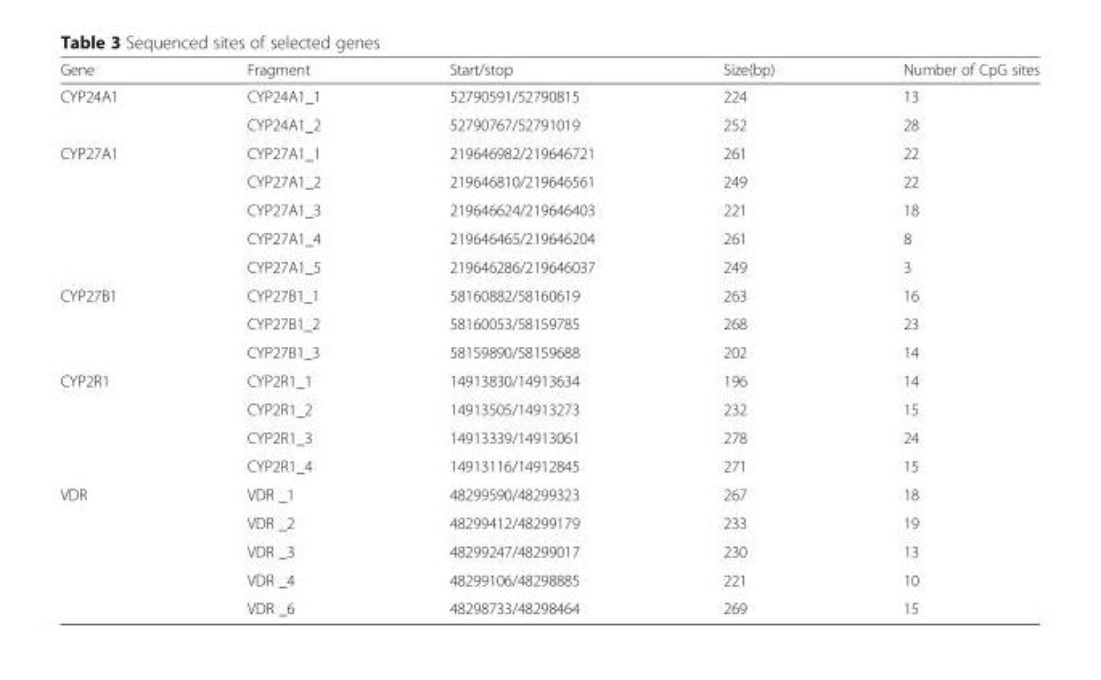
<table><thead><tr><td>Gene</td><td>Fragment</td><td>Start/stop</td><td>Size(bp)</td><td>Number of CpG sites</td></tr></thead><tbody><tr><td rowspan="2">CYP24A1</td><td>CYP24A1_1</td><td>52790591/52790815</td><td>224</td><td>13</td></tr><tr><td>CYP24A1_2</td><td>52790767/52791019</td><td>252</td><td>28</td></tr><tr><td rowspan="5">CYP27A1</td><td>CYP27A1_1</td><td>219646982/219646721</td><td>261</td><td>22</td></tr><tr><td>CYP27A1_2</td><td>219646810/219646561</td><td>249</td><td>22</td></tr><tr><td>CYP27A1_3</td><td>219646624/219646403</td><td>221</td><td>18</td></tr><tr><td>CYP27A1_4</td><td>219646465/219646204</td><td>261</td><td>8</td></tr><tr><td>CYP27A1_5</td><td>219646286/219646037</td><td>249</td><td>3</td></tr><tr><td rowspan="3">CYP27B1</td><td>CYP27B1_1</td><td>58160882/58160619</td><td>263</td><td>16</td></tr><tr><td>CYP27B1_2</td><td>58160053/58159785</td><td>268</td><td>23</td></tr><tr><td>CYP27B1_3</td><td>58159890/58159688</td><td>202</td><td>14</td></tr><tr><td rowspan="4">CYP2R1</td><td>CYP2R1_1</td><td>14913830/14913634</td><td>196</td><td>14</td></tr><tr><td>CYP2R1_2</td><td>14913505/14913273</td><td>232</td><td>15</td></tr><tr><td>CYP2R1_3</td><td>14913339/14913061</td><td>278</td><td>24</td></tr><tr><td>CYP2R1_4</td><td>14913116/14912845</td><td>271</td><td>15</td></tr><tr><td rowspan="5">VDR</td><td>VDR _1</td><td>48299590/48299323</td><td>267</td><td>18</td></tr><tr><td>VDR _2</td><td>48299412/48299179</td><td>233</td><td>19</td></tr><tr><td>VDR _3</td><td>48299247/48299017</td><td>230</td><td>13</td></tr><tr><td>VDR _4</td><td>48299106/48298885</td><td>221</td><td>10</td></tr><tr><td>VDR _6</td><td>48298733/48298464</td><td>269</td><td>15</td></tr></tbody></table>